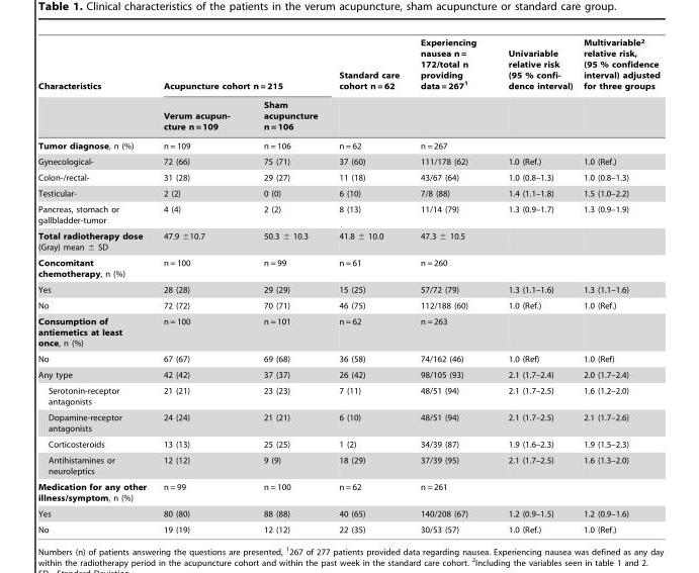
<table><thead><tr><td rowspan="2">Characteristics</td><td colspan="2">Acupuncture cohort n = 215</td><td rowspan="2">Standard care cohort n = 62</td><td rowspan="2">Experiencing nausea n = 172/total n providing data = 267<sup>1</sup></td><td rowspan="2">Univariable relative risk (95 % confi- dence interval)</td><td rowspan="2">Multivariable<sup>2</sup> relative risk, (95 % confidence interval) adjusted for three groups</td></tr><tr><td>Verum acupun- cture n = 109</td><td>Sham acupuncture n = 106</td></tr></thead><tbody><tr><td>Tumor diagnose, n (%)</td><td>n = 109</td><td>n = 106</td><td>n = 62</td><td>n = 267</td><td></td><td></td></tr><tr><td>Gynecological-</td><td>72 (66)</td><td>75 (71)</td><td>37 (60)</td><td>111/178 (62)</td><td>1.0 (Ref.)</td><td>1.0 (Ref.)</td></tr><tr><td>Colon-/rectal-</td><td>31 (28)</td><td>29 (27)</td><td>11 (18)</td><td>43/67 (64)</td><td>1.0 (0.8–1.3)</td><td>1.0 (0.8–1.3)</td></tr><tr><td>Testicular-</td><td>2 (2)</td><td>0 (0)</td><td>6 (10)</td><td>7/8 (88)</td><td>1.4 (1.1–1.8)</td><td>1.5 (1.0–2.2)</td></tr><tr><td>Pancreas, stomach or gallbladder-tumor</td><td>4 (4)</td><td>2 (2)</td><td>8 (13)</td><td>11/14 (79)</td><td>1.3 (0.9–1.7)</td><td>1.3 (0.9–1.9)</td></tr><tr><td>Total radiotherapy dose (Gray) mean ± SD</td><td>47.9 ±10.7</td><td>50.3 ± 10.3</td><td>41.8 ± 10.0</td><td>47.3 ± 10.5</td><td></td><td></td></tr><tr><td>Concomitant chemotherapy, n (%)</td><td>n = 100</td><td>n = 99</td><td>n = 61</td><td>n = 260</td><td></td><td></td></tr><tr><td>Yes</td><td>28 (28)</td><td>29 (29)</td><td>15 (25)</td><td>57/72 (79)</td><td>1.3 (1.1–1.6)</td><td>1.3 (1.1–1.6)</td></tr><tr><td>No</td><td>72 (72)</td><td>70 (71)</td><td>46 (75)</td><td>112/188 (60)</td><td>1.0 (Ref.)</td><td>1.0 (Ref.)</td></tr><tr><td>Consumption of antiemetics at least once, n (%)</td><td>n = 100</td><td>n = 101</td><td>n = 62</td><td>n = 263</td><td></td><td></td></tr><tr><td>No</td><td>67 (67)</td><td>69 (68)</td><td>36 (58)</td><td>74/162 (46)</td><td>1.0 (Ref)</td><td>1.0 (Ref)</td></tr><tr><td>Any type</td><td>42 (42)</td><td>37 (37)</td><td>26 (42)</td><td>98/105 (93)</td><td>2.1 (1.7–2.4)</td><td>2.0 (1.7–2.4)</td></tr><tr><td>Serotonin-receptor antagonists</td><td>21 (21)</td><td>23 (23)</td><td>7 (11)</td><td>48/51 (94)</td><td>2.1 (1.7–2.5)</td><td>1.6 (1.2–2.0)</td></tr><tr><td>Dopamine-receptor antagonists</td><td>24 (24)</td><td>21 (21)</td><td>6 (10)</td><td>48/51 (94)</td><td>2.1 (1.7–2.5)</td><td>2.1 (1.7–2.6)</td></tr><tr><td>Corticosteroids</td><td>13 (13)</td><td>25 (25)</td><td>1 (2)</td><td>34/39 (87)</td><td>1.9 (1.6–2.3)</td><td>1.9 (1.5–2.3)</td></tr><tr><td>Antihistamines or neuroleptics</td><td>12 (12)</td><td>9 (9)</td><td>18 (29)</td><td>37/39 (95)</td><td>2.1 (1.7–2.5)</td><td>1.6 (1.3–2.0)</td></tr><tr><td>Medication for any other illness/symptom, n (%)</td><td>n = 99</td><td>n = 100</td><td>n = 62</td><td>n = 261</td><td></td><td></td></tr><tr><td>Yes</td><td>80 (80)</td><td>88 (88)</td><td>40 (65)</td><td>140/208 (67)</td><td>1.2 (0.9–1.5)</td><td>1.2 (0.9–1.6)</td></tr><tr><td>No</td><td>19 (19)</td><td>12 (12)</td><td>22 (35)</td><td>30/53 (57)</td><td>1.0 (Ref.)</td><td>1.0 (Ref.)</td></tr></tbody></table>